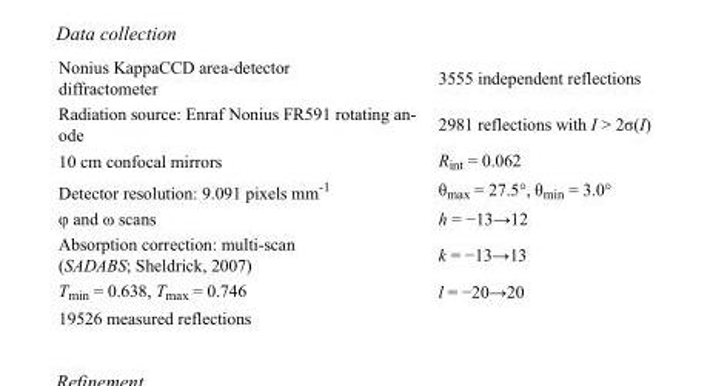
<table><tbody><tr><td>Nonius KappaCCD area-detector diffractometer</td><td>3555 independent reflections</td></tr><tr><td>Radiation source: Enraf Nonius FR591 rotating an- ode</td><td>2981 reflections with I &gt; 2σ(I)</td></tr><tr><td>10 cm confocal mirrors</td><td>R<sub>int</sub> = 0.062</td></tr><tr><td>Detector resolution: 9.091 pixels mm<sup>-1</sup></td><td>θ<sub>max</sub> = 27.5°, θ<sub>min</sub> = 3.0°</td></tr><tr><td>φ and ω scans</td><td>h = −13→12</td></tr><tr><td>Absorption correction: multi-scan (SADABS; Sheldrick, 2007)</td><td>k = −13→13</td></tr><tr><td>T<sub>min</sub> = 0.638, T<sub>max</sub> = 0.746</td><td>l = −20→20</td></tr><tr><td>19526 measured reflections</td><td></td></tr></tbody></table>